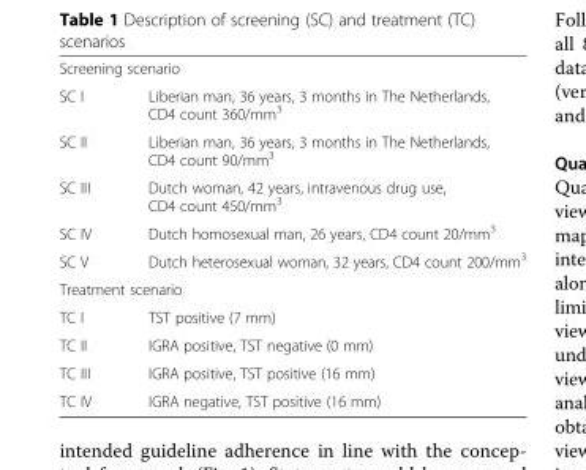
<table><tbody><tr><td colspan="2">Screening scenario</td></tr><tr><td>SC I</td><td>Liberian man, 36 years, 3 months in The Netherlands, CD4 count 360/mm<sup>3</sup></td></tr><tr><td>SC II</td><td>Liberian man, 36 years, 3 months in The Netherlands, CD4 count 90/mm<sup>3</sup></td></tr><tr><td>SC III</td><td>Dutch woman, 42 years, intravenous drug use, CD4 count 450/mm<sup>3</sup></td></tr><tr><td>SC IV</td><td>Dutch homosexual man, 26 years, CD4 count 20/mm<sup>3</sup></td></tr><tr><td>SC V</td><td>Dutch heterosexual woman, 32 years, CD4 count 200/mm<sup>3</sup></td></tr><tr><td colspan="2">Treatment scenario</td></tr><tr><td>TC I</td><td>TST positive (7 mm)</td></tr><tr><td>TC II</td><td>IGRA positive, TST negative (0 mm)</td></tr><tr><td>TC III</td><td>IGRA positive, TST positive (16 mm)</td></tr><tr><td>TC IV</td><td>IGRA negative, TST positive (16 mm)</td></tr></tbody></table>